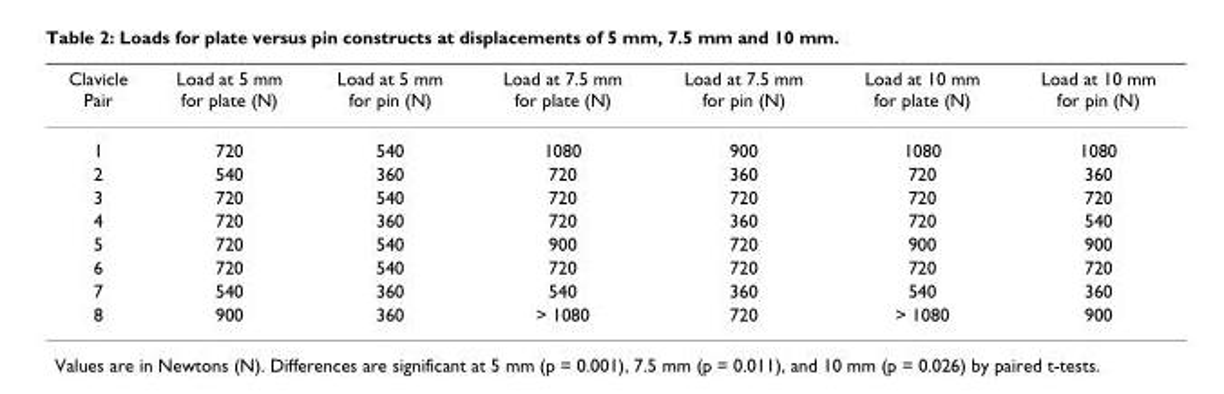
<table><thead><tr><td>Clavicle Pair</td><td>Load at 5 mm for plate (N)</td><td>Load at 5 mm for pin (N)</td><td>Load at 7.5 mm for plate (N)</td><td>Load at 7.5 mm for pin (N)</td><td>Load at 10 mm for plate (N)</td><td>Load at 10 mm for pin (N)</td></tr></thead><tbody><tr><td>1</td><td>720</td><td>540</td><td>1080</td><td>900</td><td>1080</td><td>1080</td></tr><tr><td>2</td><td>540</td><td>360</td><td>720</td><td>360</td><td>720</td><td>360</td></tr><tr><td>3</td><td>720</td><td>540</td><td>720</td><td>720</td><td>720</td><td>720</td></tr><tr><td>4</td><td>720</td><td>360</td><td>720</td><td>360</td><td>720</td><td>540</td></tr><tr><td>5</td><td>720</td><td>540</td><td>900</td><td>720</td><td>900</td><td>900</td></tr><tr><td>6</td><td>720</td><td>540</td><td>720</td><td>720</td><td>720</td><td>720</td></tr><tr><td>7</td><td>540</td><td>360</td><td>540</td><td>360</td><td>540</td><td>360</td></tr><tr><td>8</td><td>900</td><td>360</td><td>&gt; 1080</td><td>720</td><td>&gt; 1080</td><td>900</td></tr></tbody></table>